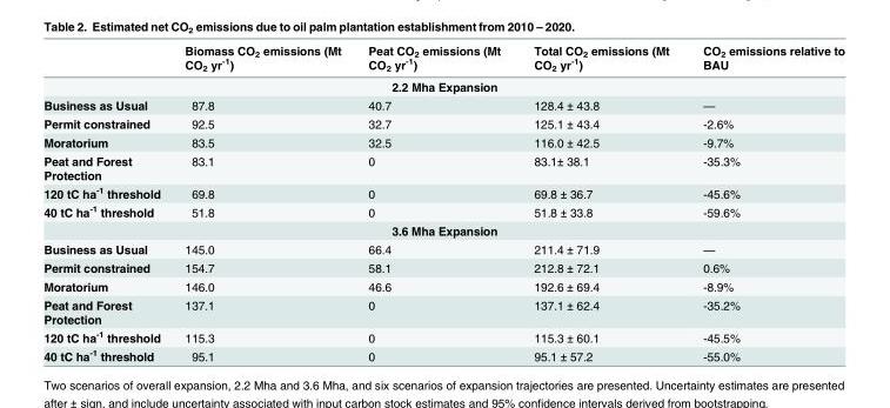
<table><thead><tr><td></td><td>Biomass CO<sub>2</sub> emissions (Mt CO<sub>2</sub> yr<sup>-1</sup>)</td><td>Peat CO<sub>2</sub> emissions (Mt CO<sub>2</sub> yr<sup>-1</sup>)</td><td>Total CO<sub>2</sub> emissions (Mt CO<sub>2</sub> yr<sup>-1</sup>)</td><td>CO<sub>2</sub> emissions relative to BAU</td></tr></thead><tbody><tr><td colspan="5">2.2 Mha Expansion</td></tr><tr><td>Business as Usual</td><td>87.8</td><td>40.7</td><td>128.4 ± 43.8</td><td>—</td></tr><tr><td>Permit constrained</td><td>92.5</td><td>32.7</td><td>125.1 ± 43.4</td><td>-2.6%</td></tr><tr><td>Moratorium</td><td>83.5</td><td>32.5</td><td>116.0 ± 42.5</td><td>-9.7%</td></tr><tr><td>Peat and Forest Protection</td><td>83.1</td><td>0</td><td>83.1± 38.1</td><td>-35.3%</td></tr><tr><td>120 tC ha<sup>-1</sup> threshold</td><td>69.8</td><td>0</td><td>69.8 ± 36.7</td><td>-45.6%</td></tr><tr><td>40 tC ha<sup>-1</sup> threshold</td><td>51.8</td><td>0</td><td>51.8 ± 33.8</td><td>-59.6%</td></tr><tr><td colspan="5">3.6 Mha Expansion</td></tr><tr><td>Business as Usual</td><td>145.0</td><td>66.4</td><td>211.4 ± 71.9</td><td>—</td></tr><tr><td>Permit constrained</td><td>154.7</td><td>58.1</td><td>212.8 ± 72.1</td><td>0.6%</td></tr><tr><td>Moratorium</td><td>146.0</td><td>46.6</td><td>192.6 ± 69.4</td><td>-8.9%</td></tr><tr><td>Peat and Forest Protection</td><td>137.1</td><td>0</td><td>137.1 ± 62.4</td><td>-35.2%</td></tr><tr><td>120 tC ha<sup>-1</sup> threshold</td><td>115.3</td><td>0</td><td>115.3 ± 60.1</td><td>-45.5%</td></tr><tr><td>40 tC ha<sup>-1</sup> threshold</td><td>95.1</td><td>0</td><td>95.1 ± 57.2</td><td>-55.0%</td></tr></tbody></table>